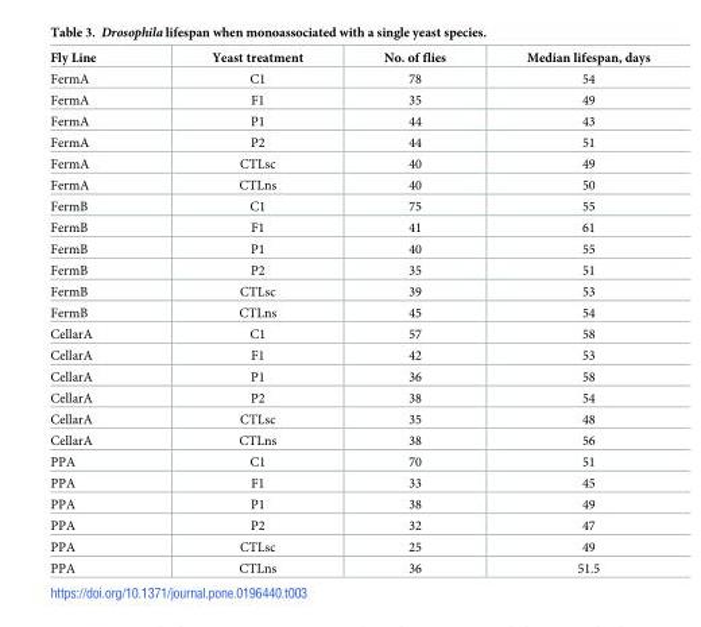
<table><thead><tr><td>Fly Line</td><td>Yeast treatment</td><td>No. of flies</td><td>Median lifespan, days</td></tr></thead><tbody><tr><td>FermA</td><td>C1</td><td>78</td><td>54</td></tr><tr><td>FermA</td><td>F1</td><td>35</td><td>49</td></tr><tr><td>FermA</td><td>P1</td><td>44</td><td>43</td></tr><tr><td>FermA</td><td>P2</td><td>44</td><td>51</td></tr><tr><td>FermA</td><td>CTLsc</td><td>40</td><td>49</td></tr><tr><td>FermA</td><td>CTLns</td><td>40</td><td>50</td></tr><tr><td>FermB</td><td>C1</td><td>75</td><td>55</td></tr><tr><td>FermB</td><td>F1</td><td>41</td><td>61</td></tr><tr><td>FermB</td><td>P1</td><td>40</td><td>55</td></tr><tr><td>FermB</td><td>P2</td><td>35</td><td>51</td></tr><tr><td>FermB</td><td>CTLsc</td><td>39</td><td>53</td></tr><tr><td>FermB</td><td>CTLns</td><td>45</td><td>54</td></tr><tr><td>CellarA</td><td>C1</td><td>57</td><td>58</td></tr><tr><td>CellarA</td><td>F1</td><td>42</td><td>53</td></tr><tr><td>CellarA</td><td>P1</td><td>36</td><td>58</td></tr><tr><td>CellarA</td><td>P2</td><td>38</td><td>54</td></tr><tr><td>CellarA</td><td>CTLsc</td><td>35</td><td>48</td></tr><tr><td>CellarA</td><td>CTLns</td><td>38</td><td>56</td></tr><tr><td>PPA</td><td>C1</td><td>70</td><td>51</td></tr><tr><td>PPA</td><td>F1</td><td>33</td><td>45</td></tr><tr><td>PPA</td><td>P1</td><td>38</td><td>49</td></tr><tr><td>PPA</td><td>P2</td><td>32</td><td>47</td></tr><tr><td>PPA</td><td>CTLsc</td><td>25</td><td>49</td></tr><tr><td>PPA</td><td>CTLns</td><td>36</td><td>51.5</td></tr></tbody></table>